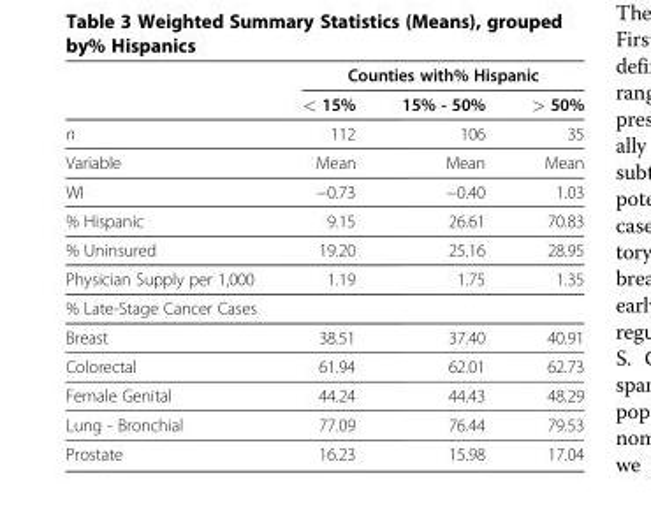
<table><thead><tr><td rowspan="2"></td><td colspan="3">Counties with% Hispanic</td></tr><tr><td>&lt; 15%</td><td>15% - 50%</td><td>&gt; 50%</td></tr></thead><tbody><tr><td>n</td><td>112</td><td>106</td><td>35</td></tr><tr><td>Variable</td><td>Mean</td><td>Mean</td><td>Mean</td></tr><tr><td>WI</td><td>−0.73</td><td>−0.40</td><td>1.03</td></tr><tr><td>% Hispanic</td><td>9.15</td><td>26.61</td><td>70.83</td></tr><tr><td>% Uninsured</td><td>19.20</td><td>25.16</td><td>28.95</td></tr><tr><td>Physician Supply per 1,000</td><td>1.19</td><td>1.75</td><td>1.35</td></tr><tr><td colspan="4">% Late-Stage Cancer Cases</td></tr><tr><td>Breast</td><td>38.51</td><td>37.40</td><td>40.91</td></tr><tr><td>Colorectal</td><td>61.94</td><td>62.01</td><td>62.73</td></tr><tr><td>Female Genital</td><td>44.24</td><td>44.43</td><td>48.29</td></tr><tr><td>Lung - Bronchial</td><td>77.09</td><td>76.44</td><td>79.53</td></tr><tr><td>Prostate</td><td>16.23</td><td>15.98</td><td>17.04</td></tr></tbody></table>